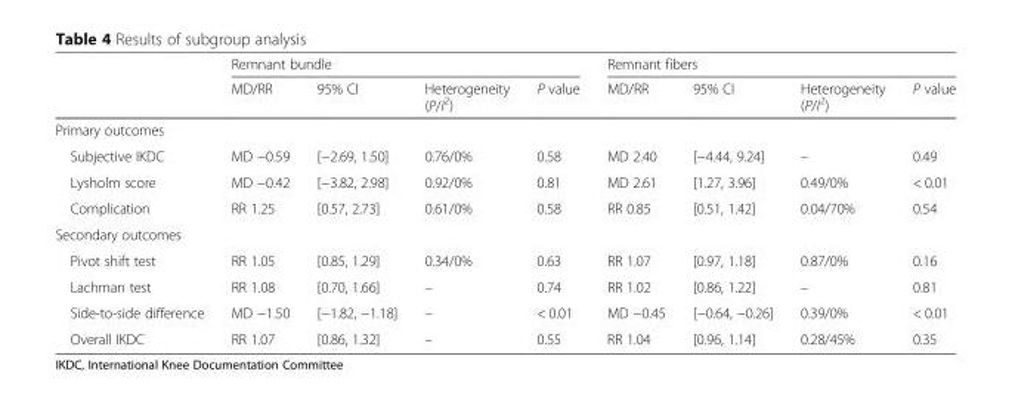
<table><thead><tr><td rowspan="2"></td><td colspan="4">Remnant bundle</td><td colspan="4">Remnant fibers</td></tr><tr><td>MD/RR</td><td>95% CI</td><td>Heterogeneity (P/I<sup>2</sup>)</td><td>P value</td><td>MD/RR</td><td>95% CI</td><td>Heterogeneity (P/I<sup>2</sup>)</td><td>P value</td></tr></thead><tbody><tr><td colspan="9">Primary outcomes</td></tr><tr><td>Subjective IKDC</td><td>MD −0.59</td><td>[−2.69, 1.50]</td><td>0.76/0%</td><td>0.58</td><td>MD 2.40</td><td>[−4.44, 9.24]</td><td>–</td><td>0.49</td></tr><tr><td>Lysholm score</td><td>MD −0.42</td><td>[−3.82, 2.98]</td><td>0.92/0%</td><td>0.81</td><td>MD 2.61</td><td>[1.27, 3.96]</td><td>0.49/0%</td><td>&lt; 0.01</td></tr><tr><td>Complication</td><td>RR 1.25</td><td>[0.57, 2.73]</td><td>0.61/0%</td><td>0.58</td><td>RR 0.85</td><td>[0.51, 1.42]</td><td>0.04/70%</td><td>0.54</td></tr><tr><td colspan="9">Secondary outcomes</td></tr><tr><td>Pivot shift test</td><td>RR 1.05</td><td>[0.85, 1.29]</td><td>0.34/0%</td><td>0.63</td><td>RR 1.07</td><td>[0.97, 1.18]</td><td>0.87/0%</td><td>0.16</td></tr><tr><td>Lachman test</td><td>RR 1.08</td><td>[0.70, 1.66]</td><td>–</td><td>0.74</td><td>RR 1.02</td><td>[0.86, 1.22]</td><td>–</td><td>0.81</td></tr><tr><td>Side-to-side difference</td><td>MD −1.50</td><td>[−1.82, −1.18]</td><td>–</td><td>&lt; 0.01</td><td>MD −0.45</td><td>[−0.64, −0.26]</td><td>0.39/0%</td><td>&lt; 0.01</td></tr><tr><td>Overall IKDC</td><td>RR 1.07</td><td>[0.86, 1.32]</td><td>–</td><td>0.55</td><td>RR 1.04</td><td>[0.96, 1.14]</td><td>0.28/45%</td><td>0.35</td></tr></tbody></table>